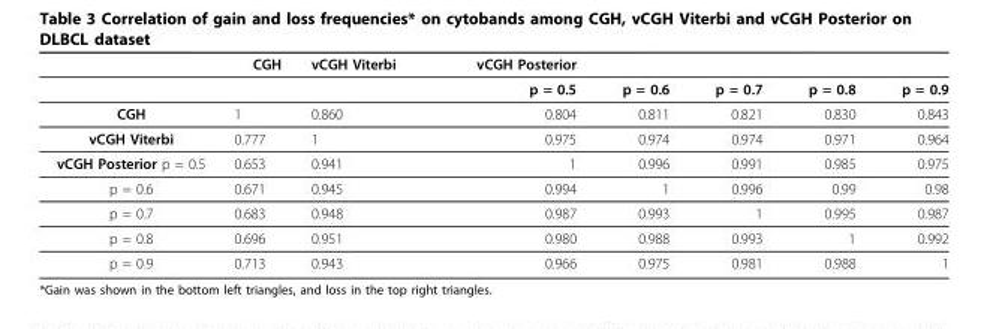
<table><thead><tr><td></td><td>CGH</td><td>vCGH Viterbi</td><td>vCGH Posterior</td><td></td><td></td><td></td><td></td></tr></thead><tbody><tr><td></td><td></td><td></td><td>p = 0.5</td><td>p = 0.6</td><td>p = 0.7</td><td>p = 0.8</td><td>p = 0.9</td></tr><tr><td>CGH</td><td>1</td><td>0.860</td><td>0.804</td><td>0.811</td><td>0.821</td><td>0.830</td><td>0.843</td></tr><tr><td>vCGH Viterbi</td><td>0.777</td><td>1</td><td>0.975</td><td>0.974</td><td>0.974</td><td>0.971</td><td>0.964</td></tr><tr><td>vCGH Posterior p = 0.5</td><td>0.653</td><td>0.941</td><td>1</td><td>0.996</td><td>0.991</td><td>0.985</td><td>0.975</td></tr><tr><td>p = 0.6</td><td>0.671</td><td>0.945</td><td>0.994</td><td>1</td><td>0.996</td><td>0.99</td><td>0.98</td></tr><tr><td>p = 0.7</td><td>0.683</td><td>0.948</td><td>0.987</td><td>0.993</td><td>1</td><td>0.995</td><td>0.987</td></tr><tr><td>p = 0.8</td><td>0.696</td><td>0.951</td><td>0.980</td><td>0.988</td><td>0.993</td><td>1</td><td>0.992</td></tr><tr><td>p = 0.9</td><td>0.713</td><td>0.943</td><td>0.966</td><td>0.975</td><td>0.981</td><td>0.988</td><td>1</td></tr></tbody></table>